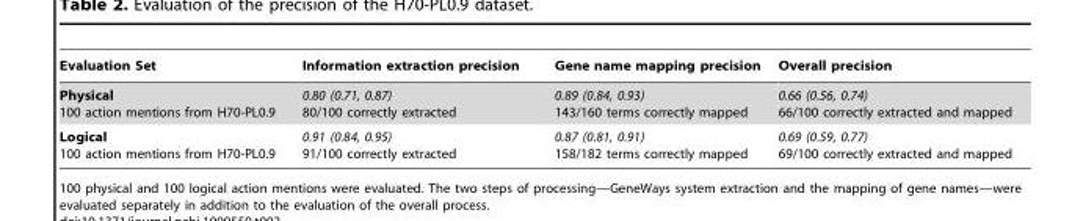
<table><thead><tr><td>Evaluation Set</td><td>Information extraction precision</td><td>Gene name mapping precision</td><td>Overall precision</td></tr></thead><tbody><tr><td>Physical 100 action mentions from H70-PL0.9</td><td>0.80 (0.71, 0.87) 80/100 correctly extracted</td><td>0.89 (0.84, 0.93) 143/160 terms correctly mapped</td><td>0.66 (0.56, 0.74) 66/100 correctly extracted and mapped</td></tr><tr><td>Logical 100 action mentions from H70-PL0.9</td><td>0.91 (0.84, 0.95) 91/100 correctly extracted</td><td>0.87 (0.81, 0.91) 158/182 terms correctly mapped</td><td>0.69 (0.59, 0.77) 69/100 correctly extracted and mapped</td></tr></tbody></table>